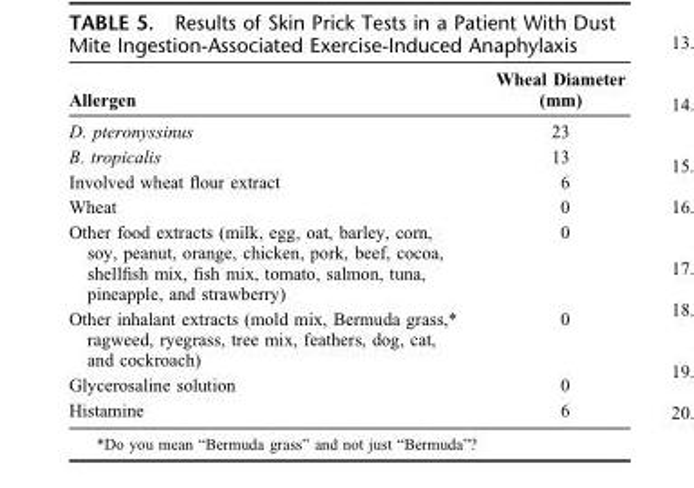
<table><thead><tr><td>Allergen</td><td>Wheal Diameter (mm)</td></tr></thead><tbody><tr><td>D. pteronyssinus</td><td>23</td></tr><tr><td>B. tropicalis</td><td>13</td></tr><tr><td>Involved wheat flour extract</td><td>6</td></tr><tr><td>Wheat</td><td>0</td></tr><tr><td>Other food extracts (milk, egg, oat, barley, corn, soy, peanut, orange, chicken, pork, beef, cocoa, shellfish mix, fish mix, tomato, salmon, tuna, pineapple, and strawberry)</td><td>0</td></tr><tr><td>Other inhalant extracts (mold mix, Bermuda grass,* ragweed, ryegrass, tree mix, feathers, dog, cat, and cockroach)</td><td>0</td></tr><tr><td>Glycerosaline solution</td><td>0</td></tr><tr><td>Histamine</td><td>6</td></tr></tbody></table>